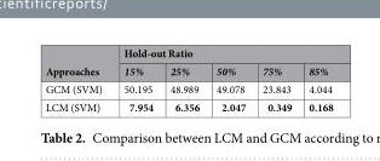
<table><thead><tr><td rowspan="2">Approaches</td><td colspan="5">Hold-out Ratio</td></tr><tr><td>15%</td><td>25%</td><td>50%</td><td>75%</td><td>85%</td></tr></thead><tbody><tr><td>GCM (SVM)</td><td>50.195</td><td>48.989</td><td>49.078</td><td>23.843</td><td>4.044</td></tr><tr><td>LCM (SVM)</td><td>7.954</td><td>6.356</td><td>2.047</td><td>0.349</td><td>0.168</td></tr></tbody></table>